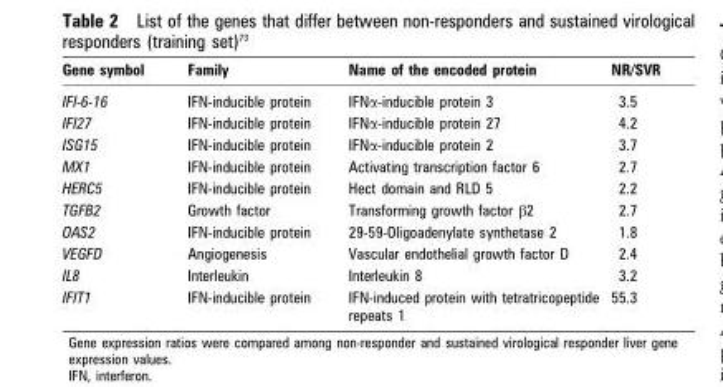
<table><thead><tr><td>Gene symbol</td><td>Family</td><td>Name of the encoded protein</td><td>NR/SVR</td></tr></thead><tbody><tr><td>IFI-6-16</td><td>IFN-inducible protein</td><td>IFNα-inducible protein 3</td><td>3.5</td></tr><tr><td>IFI27</td><td>IFN-inducible protein</td><td>IFNα-inducible protein 27</td><td>4.2</td></tr><tr><td>ISG15</td><td>IFN-inducible protein</td><td>IFNα-inducible protein 2</td><td>3.7</td></tr><tr><td>MX1</td><td>IFN-inducible protein</td><td>Activating transcription factor 6</td><td>2.7</td></tr><tr><td>HERC5</td><td>IFN-inducible protein</td><td>Hect domain and RLD 5</td><td>2.2</td></tr><tr><td>TGFB2</td><td>Growth factor</td><td>Transforming growth factor β2</td><td>2.7</td></tr><tr><td>OAS2</td><td>IFN-inducible protein</td><td>29-59-Oligoadenylate synthetase 2</td><td>1.8</td></tr><tr><td>VEGFD</td><td>Angiogenesis</td><td>Vascular endothelial growth factor D</td><td>2.4</td></tr><tr><td>IL8</td><td>Interleukin</td><td>Interleukin 8</td><td>3.2</td></tr><tr><td>IFIT1</td><td>IFN-inducible protein</td><td>IFN-induced protein with tetratricopeptide repeats 1</td><td>55.3</td></tr></tbody></table>